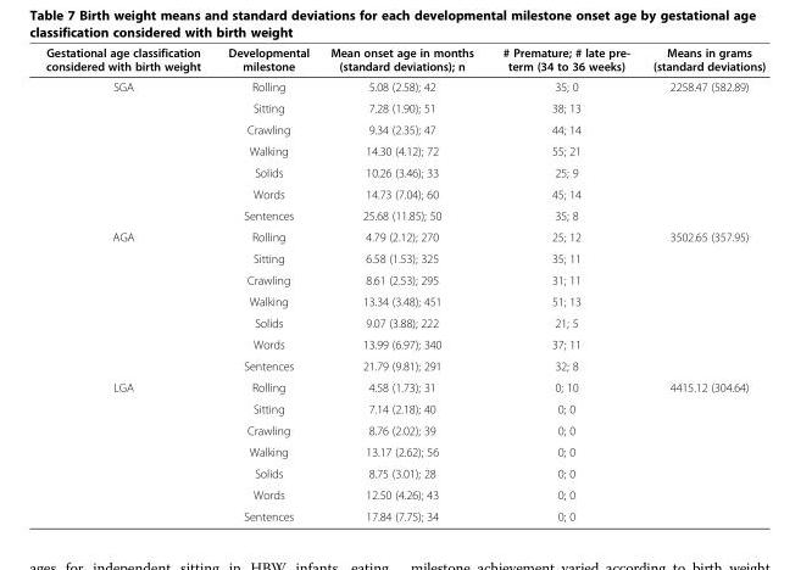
<table><thead><tr><td>Gestational age classification considered with birth weight</td><td>Developmental milestone</td><td>Mean onset age in months (standard deviations); n</td><td># Premature; # late pre- term (34 to 36 weeks)</td><td>Means in grams (standard deviations)</td></tr></thead><tbody><tr><td rowspan="7">SGA</td><td>Rolling</td><td>5.08 (2.58); 42</td><td>35; 0</td><td>2258.47 (582.89)</td></tr><tr><td>Sitting</td><td>7.28 (1.90); 51</td><td>38; 13</td><td></td></tr><tr><td>Crawling</td><td>9.34 (2.35); 47</td><td>44; 14</td><td></td></tr><tr><td>Walking</td><td>14.30 (4.12); 72</td><td>55; 21</td><td></td></tr><tr><td>Solids</td><td>10.26 (3.46); 33</td><td>25; 9</td><td></td></tr><tr><td>Words</td><td>14.73 (7.04); 60</td><td>45; 14</td><td></td></tr><tr><td>Sentences</td><td>25.68 (11.85); 50</td><td>35; 8</td><td></td></tr><tr><td rowspan="7">AGA</td><td>Rolling</td><td>4.79 (2.12); 270</td><td>25; 12</td><td>3502.65 (357.95)</td></tr><tr><td>Sitting</td><td>6.58 (1.53); 325</td><td>35; 11</td><td></td></tr><tr><td>Crawling</td><td>8.61 (2.53); 295</td><td>31; 11</td><td></td></tr><tr><td>Walking</td><td>13.34 (3.48); 451</td><td>51; 13</td><td></td></tr><tr><td>Solids</td><td>9.07 (3.88); 222</td><td>21; 5</td><td></td></tr><tr><td>Words</td><td>13.99 (6.97); 340</td><td>37; 11</td><td></td></tr><tr><td>Sentences</td><td>21.79 (9.81); 291</td><td>32; 8</td><td></td></tr><tr><td rowspan="7">LGA</td><td>Rolling</td><td>4.58 (1.73); 31</td><td>0; 10</td><td>4415.12 (304.64)</td></tr><tr><td>Sitting</td><td>7.14 (2.18); 40</td><td>0; 0</td><td></td></tr><tr><td>Crawling</td><td>8.76 (2.02); 39</td><td>0; 0</td><td></td></tr><tr><td>Walking</td><td>13.17 (2.62); 56</td><td>0; 0</td><td></td></tr><tr><td>Solids</td><td>8.75 (3.01); 28</td><td>0; 0</td><td></td></tr><tr><td>Words</td><td>12.50 (4.26); 43</td><td>0; 0</td><td></td></tr><tr><td>Sentences</td><td>17.84 (7.75); 34</td><td>0; 0</td><td></td></tr></tbody></table>